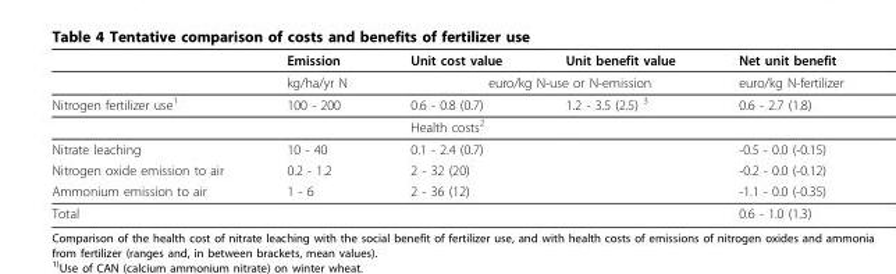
<table><thead><tr><td></td><td>Emission</td><td>Unit cost value</td><td>Unit benefit value</td><td>Net unit benefit</td></tr></thead><tbody><tr><td></td><td>kg/ha/yr N</td><td colspan="2">euro/kg N-use or N-emission</td><td>euro/kg N-fertilizer</td></tr><tr><td rowspan="2">Nitrogen fertilizer use<sup>1</sup></td><td>100 - 200</td><td>0.6 - 0.8 (0.7)</td><td>1.2 - 3.5 (2.5) <sup>3</sup></td><td>0.6 - 2.7 (1.8)</td></tr><tr><td></td><td>Health costs<sup>2</sup></td><td></td><td></td></tr><tr><td>Nitrate leaching</td><td>10 - 40</td><td>0.1 - 2.4 (0.7)</td><td></td><td>-0.5 - 0.0 (-0.15)</td></tr><tr><td>Nitrogen oxide emission to air</td><td>0.2 - 1.2</td><td>2 - 32 (20)</td><td></td><td>-0.2 - 0.0 (-0.12)</td></tr><tr><td>Ammonium emission to air</td><td>1 - 6</td><td>2 - 36 (12)</td><td></td><td>-1.1 - 0.0 (-0.35)</td></tr><tr><td>Total</td><td></td><td></td><td></td><td>0.6 - 1.0 (1.3)</td></tr></tbody></table>